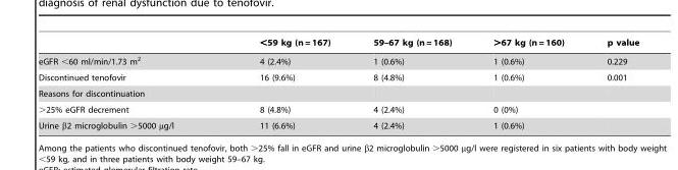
<table><thead><tr><td></td><td>&lt;59 kg (n = 167)</td><td>59–67 kg (n = 168)</td><td>&gt;67 kg (n = 160)</td><td>p value</td></tr></thead><tbody><tr><td>eGFR &lt;60 ml/min/1.73 m<sup>2</sup></td><td>4 (2.4%)</td><td>1 (0.6%)</td><td>1 (0.6%)</td><td>0.229</td></tr><tr><td>Discontinued tenofovir</td><td>16 (9.6%)</td><td>8 (4.8%)</td><td>1 (0.6%)</td><td>0.001</td></tr><tr><td colspan="5">Reasons for discontinuation</td></tr><tr><td>&gt;25% eGFR decrement</td><td>8 (4.8%)</td><td>4 (2.4%)</td><td>0 (0%)</td><td></td></tr><tr><td>Urine β2 microglobulin &gt;5000 µg/l</td><td>11 (6.6%)</td><td>4 (2.4%)</td><td>1 (0.6%)</td><td></td></tr></tbody></table>